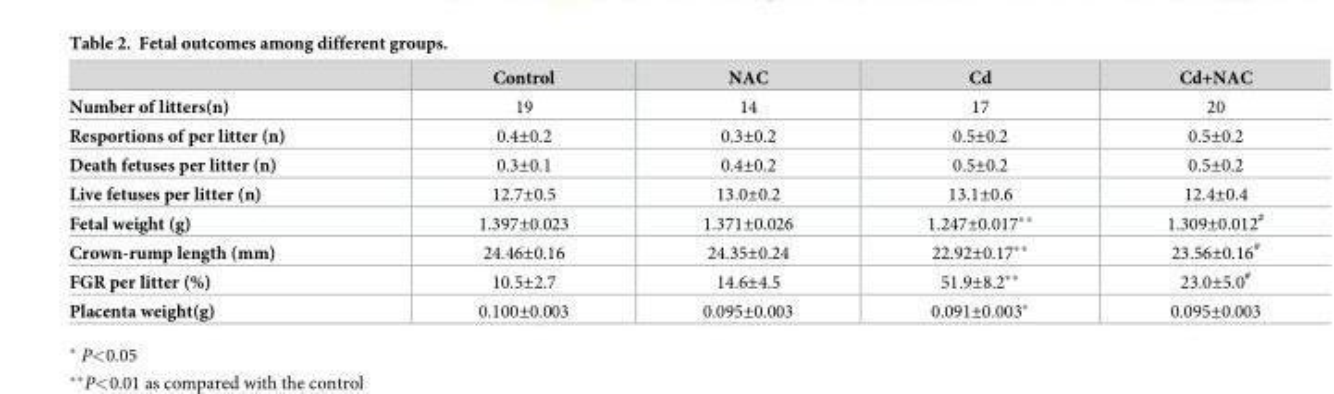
<table><thead><tr><td></td><td>Control</td><td>NAC</td><td>Cd</td><td>Cd+NAC</td></tr></thead><tbody><tr><td>Number of litters(n)</td><td>19</td><td>14</td><td>17</td><td>20</td></tr><tr><td>Resportions of per litter (n)</td><td>0.4±0.2</td><td>0.3±0.2</td><td>0.5±0.2</td><td>0.5±0.2</td></tr><tr><td>Death fetuses per litter (n)</td><td>0.3±0.1</td><td>0.4±0.2</td><td>0.5±0.2</td><td>0.5±0.2</td></tr><tr><td>Live fetuses per litter (n)</td><td>12.7±0.5</td><td>13.0±0.2</td><td>13.1±0.6</td><td>12.4±0.4</td></tr><tr><td>Fetal weight (g)</td><td>1.397±0.023</td><td>1.371±0.026</td><td>1.247±0.017**</td><td>1.309±0.012<sup>#</sup></td></tr><tr><td>Crown-rump length (mm)</td><td>24.46±0.16</td><td>24.35±0.24</td><td>22.92±0.17**</td><td>23.56±0.16<sup>#</sup></td></tr><tr><td>FGR per litter (%)</td><td>10.5±2.7</td><td>14.6±4.5</td><td>51.9±8.2**</td><td>23.0±5.0<sup>#</sup></td></tr><tr><td>Placenta weight(g)</td><td>0.100±0.003</td><td>0.095±0.003</td><td>0.091±0.003*</td><td>0.095±0.003</td></tr></tbody></table>